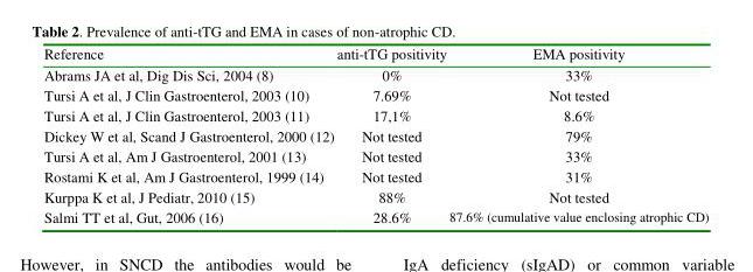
<table><thead><tr><td>Reference</td><td>anti-tTG positivity</td><td>EMA positivity</td></tr></thead><tbody><tr><td>Abrams JA et al, Dig Dis Sci, 2004 (8)</td><td>0%</td><td>33%</td></tr><tr><td>Tursi A et al, J Clin Gastroenterol, 2003 (10)</td><td>7.69%</td><td>Not tested</td></tr><tr><td>Tursi A et al, J Clin Gastroenterol, 2003 (11)</td><td>17,1%</td><td>8.6%</td></tr><tr><td>Dickey W et al, Scand J Gastroenterol, 2000 (12)</td><td>Not tested</td><td>79%</td></tr><tr><td>Tursi A et al, Am J Gastroenterol, 2001 (13)</td><td>Not tested</td><td>33%</td></tr><tr><td>Rostami K et al, Am J Gastroenterol, 1999 (14)</td><td>Not tested</td><td>31%</td></tr><tr><td>Kurppa K et al, J Pediatr, 2010 (15)</td><td>88%</td><td>Not tested</td></tr><tr><td>Salmi TT et al, Gut, 2006 (16)</td><td>28.6%</td><td>87.6% (cumulative value enclosing atrophic CD)</td></tr></tbody></table>